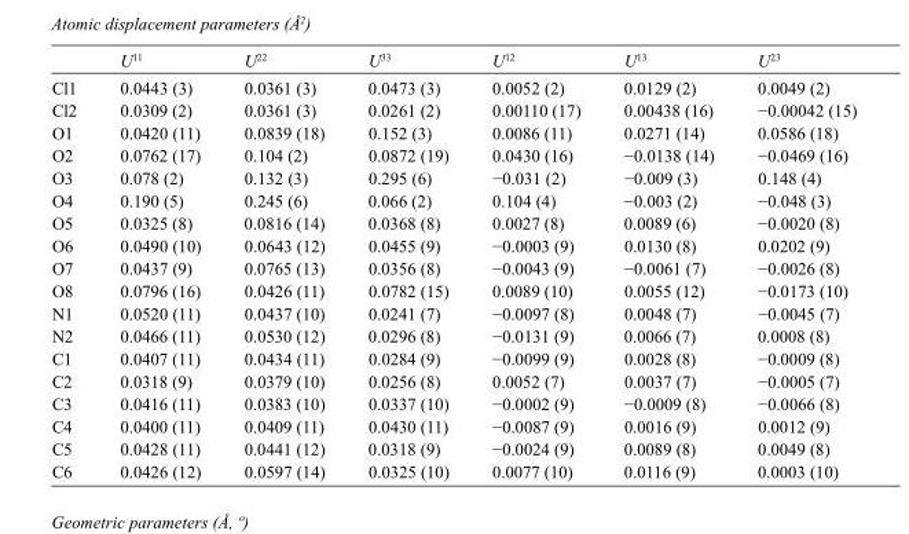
<table><thead><tr><td></td><td>U<sup>11</sup></td><td>U<sup>22</sup></td><td>U<sup>33</sup></td><td>U<sup>12</sup></td><td>U<sup>13</sup></td><td>U<sup>23</sup></td></tr></thead><tbody><tr><td>Cl1</td><td>0.0443 (3)</td><td>0.0361 (3)</td><td>0.0473 (3)</td><td>0.0052 (2)</td><td>0.0129 (2)</td><td>0.0049 (2)</td></tr><tr><td>Cl2</td><td>0.0309 (2)</td><td>0.0361 (3)</td><td>0.0261 (2)</td><td>0.00110 (17)</td><td>0.00438 (16)</td><td>−0.00042 (15)</td></tr><tr><td>O1</td><td>0.0420 (11)</td><td>0.0839 (18)</td><td>0.152 (3)</td><td>0.0086 (11)</td><td>0.0271 (14)</td><td>0.0586 (18)</td></tr><tr><td>O2</td><td>0.0762 (17)</td><td>0.104 (2)</td><td>0.0872 (19)</td><td>0.0430 (16)</td><td>−0.0138 (14)</td><td>−0.0469 (16)</td></tr><tr><td>O3</td><td>0.078 (2)</td><td>0.132 (3)</td><td>0.295 (6)</td><td>−0.031 (2)</td><td>−0.009 (3)</td><td>0.148 (4)</td></tr><tr><td>O4</td><td>0.190 (5)</td><td>0.245 (6)</td><td>0.066 (2)</td><td>0.104 (4)</td><td>−0.003 (2)</td><td>−0.048 (3)</td></tr><tr><td>O5</td><td>0.0325 (8)</td><td>0.0816 (14)</td><td>0.0368 (8)</td><td>0.0027 (8)</td><td>0.0089 (6)</td><td>−0.0020 (8)</td></tr><tr><td>O6</td><td>0.0490 (10)</td><td>0.0643 (12)</td><td>0.0455 (9)</td><td>−0.0003 (9)</td><td>0.0130 (8)</td><td>0.0202 (9)</td></tr><tr><td>O7</td><td>0.0437 (9)</td><td>0.0765 (13)</td><td>0.0356 (8)</td><td>−0.0043 (9)</td><td>−0.0061 (7)</td><td>−0.0026 (8)</td></tr><tr><td>O8</td><td>0.0796 (16)</td><td>0.0426 (11)</td><td>0.0782 (15)</td><td>0.0089 (10)</td><td>0.0055 (12)</td><td>−0.0173 (10)</td></tr><tr><td>N1</td><td>0.0520 (11)</td><td>0.0437 (10)</td><td>0.0241 (7)</td><td>−0.0097 (8)</td><td>0.0048 (7)</td><td>−0.0045 (7)</td></tr><tr><td>N2</td><td>0.0466 (11)</td><td>0.0530 (12)</td><td>0.0296 (8)</td><td>−0.0131 (9)</td><td>0.0066 (7)</td><td>0.0008 (8)</td></tr><tr><td>C1</td><td>0.0407 (11)</td><td>0.0434 (11)</td><td>0.0284 (9)</td><td>−0.0099 (9)</td><td>0.0028 (8)</td><td>−0.0009 (8)</td></tr><tr><td>C2</td><td>0.0318 (9)</td><td>0.0379 (10)</td><td>0.0256 (8)</td><td>0.0052 (7)</td><td>0.0037 (7)</td><td>−0.0005 (7)</td></tr><tr><td>C3</td><td>0.0416 (11)</td><td>0.0383 (10)</td><td>0.0337 (10)</td><td>−0.0002 (9)</td><td>−0.0009 (8)</td><td>−0.0066 (8)</td></tr><tr><td>C4</td><td>0.0400 (11)</td><td>0.0409 (11)</td><td>0.0430 (11)</td><td>−0.0087 (9)</td><td>0.0016 (9)</td><td>0.0012 (9)</td></tr><tr><td>C5</td><td>0.0428 (11)</td><td>0.0441 (12)</td><td>0.0318 (9)</td><td>−0.0024 (9)</td><td>0.0089 (8)</td><td>0.0049 (8)</td></tr><tr><td>C6</td><td>0.0426 (12)</td><td>0.0597 (14)</td><td>0.0325 (10)</td><td>0.0077 (10)</td><td>0.0116 (9)</td><td>0.0003 (10)</td></tr></tbody></table>